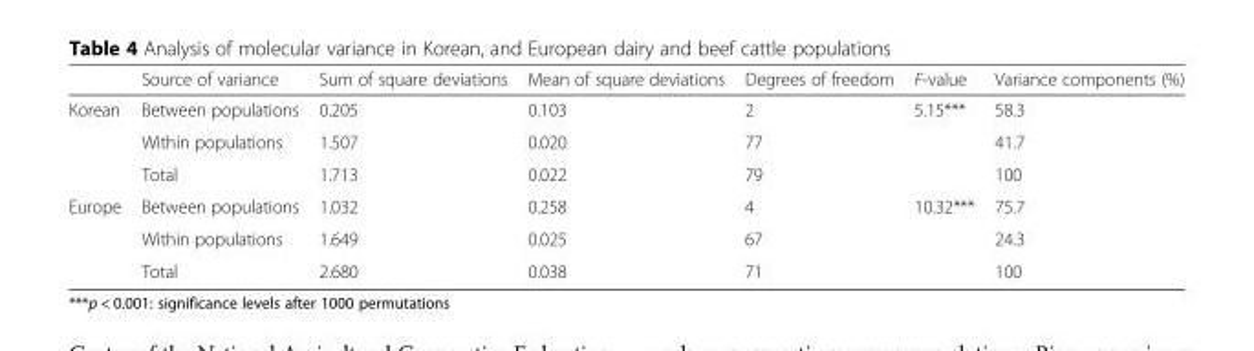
<table><thead><tr><td></td><td>Source of variance</td><td>Sum of square deviations</td><td>Mean of square deviations</td><td>Degrees of freedom</td><td>F-value</td><td>Variance components (%)</td></tr></thead><tbody><tr><td rowspan="3">Korean</td><td>Between populations</td><td>0.205</td><td>0.103</td><td>2</td><td>5.15***</td><td>58.3</td></tr><tr><td>Within populations</td><td>1.507</td><td>0.020</td><td>77</td><td></td><td>41.7</td></tr><tr><td>Total</td><td>1.713</td><td>0.022</td><td>79</td><td></td><td>100</td></tr><tr><td rowspan="3">Europe</td><td>Between populations</td><td>1.032</td><td>0.258</td><td>4</td><td>10.32***</td><td>75.7</td></tr><tr><td>Within populations</td><td>1.649</td><td>0.025</td><td>67</td><td></td><td>24.3</td></tr><tr><td>Total</td><td>2.680</td><td>0.038</td><td>71</td><td></td><td>100</td></tr></tbody></table>